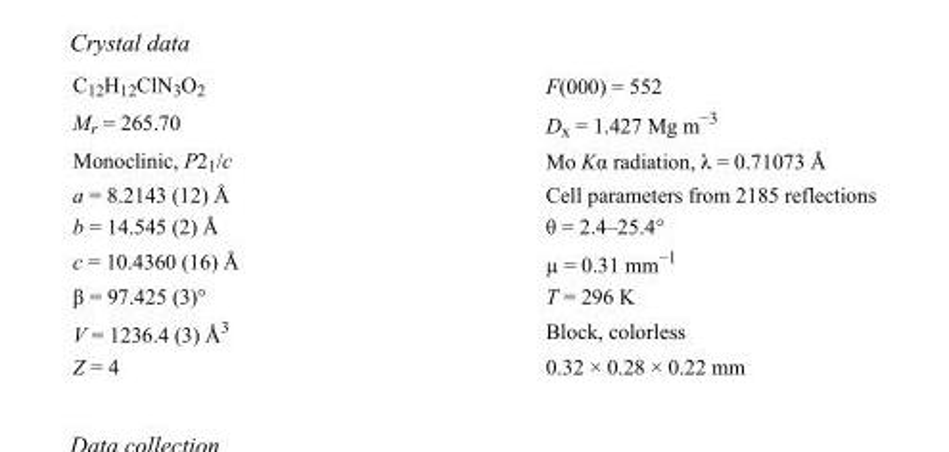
<table><tbody><tr><td>C<sub>12</sub>H<sub>12</sub>ClN<sub>3</sub>O<sub>2</sub></td><td>F(000) = 552</td></tr><tr><td>M<sub>r</sub> = 265.70</td><td>D<sub>x</sub> = 1.427 Mg m<sup>−3</sup></td></tr><tr><td>Monoclinic, P2<sub>1</sub>/c</td><td>Mo Kα radiation, λ = 0.71073 Å</td></tr><tr><td>a = 8.2143 (12) Å</td><td>Cell parameters from 2185 reflections</td></tr><tr><td>b = 14.545 (2) Å</td><td>θ = 2.4–25.4°</td></tr><tr><td>c = 10.4360 (16) Å</td><td>µ = 0.31 mm<sup>−1</sup></td></tr><tr><td>β = 97.425 (3)°</td><td>T = 296 K</td></tr><tr><td>V = 1236.4 (3) Å<sup>3</sup></td><td>Block, colorless</td></tr><tr><td>Z = 4</td><td>0.32 × 0.28 × 0.22 mm</td></tr></tbody></table>